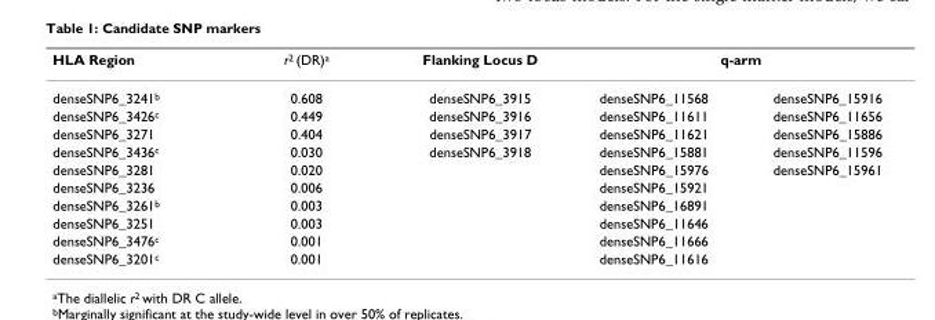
<table><thead><tr><td rowspan="2">HLA Region denseSNP6_3241<sup>b</sup></td><td rowspan="2">r<sup>2</sup> (DR)<sup>a</sup> 0.608</td><td rowspan="2">Flanking Locus D denseSNP6_3915</td><td colspan="2">q-arm</td></tr><tr><td>denseSNP6_11568</td><td>denseSNP6_15916</td></tr></thead><tbody><tr><td>denseSNP6_3426<sup>c</sup></td><td>0.449</td><td>denseSNP6_3916</td><td>denseSNP6_11611</td><td>denseSNP6_11656</td></tr><tr><td>denseSNP6_3271</td><td>0.404</td><td>denseSNP6_3917</td><td>denseSNP6_11621</td><td>denseSNP6_15886</td></tr><tr><td>denseSNP6_3436<sup>c</sup></td><td>0.030</td><td>denseSNP6_3918</td><td>denseSNP6_15881</td><td>denseSNP6_11596</td></tr><tr><td>denseSNP6_3281</td><td>0.020</td><td></td><td>denseSNP6_15976</td><td>denseSNP6_15961</td></tr><tr><td>denseSNP6_3236</td><td>0.006</td><td></td><td>denseSNP6_15921</td><td></td></tr><tr><td>denseSNP6_3261<sup>b</sup></td><td>0.003</td><td></td><td>denseSNP6_16891</td><td></td></tr><tr><td>denseSNP6_3251</td><td>0.003</td><td></td><td>denseSNP6_11646</td><td></td></tr><tr><td>denseSNP6_3476<sup>c</sup></td><td>0.001</td><td></td><td>denseSNP6_11666</td><td></td></tr><tr><td>denseSNP6_3201<sup>c</sup></td><td>0.001</td><td></td><td>denseSNP6_11616</td><td></td></tr></tbody></table>